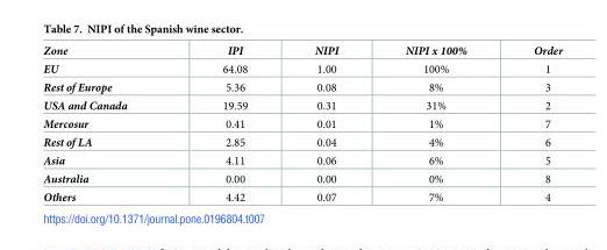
<table><thead><tr><td>Zone</td><td>IPI</td><td>NIPI</td><td>NIPI x 100%</td><td>Order</td></tr></thead><tbody><tr><td>EU</td><td>64.08</td><td>1.00</td><td>100%</td><td>1</td></tr><tr><td>Rest of Europe</td><td>5.36</td><td>0.08</td><td>8%</td><td>3</td></tr><tr><td>USA and Canada</td><td>19.59</td><td>0.31</td><td>31%</td><td>2</td></tr><tr><td>Mercosur</td><td>0.41</td><td>0.01</td><td>1%</td><td>7</td></tr><tr><td>Rest of LA</td><td>2.85</td><td>0.04</td><td>4%</td><td>6</td></tr><tr><td>Asia</td><td>4.11</td><td>0.06</td><td>6%</td><td>5</td></tr><tr><td>Australia</td><td>0.00</td><td>0.00</td><td>0%</td><td>8</td></tr><tr><td>Others</td><td>4.42</td><td>0.07</td><td>7%</td><td>4</td></tr></tbody></table>